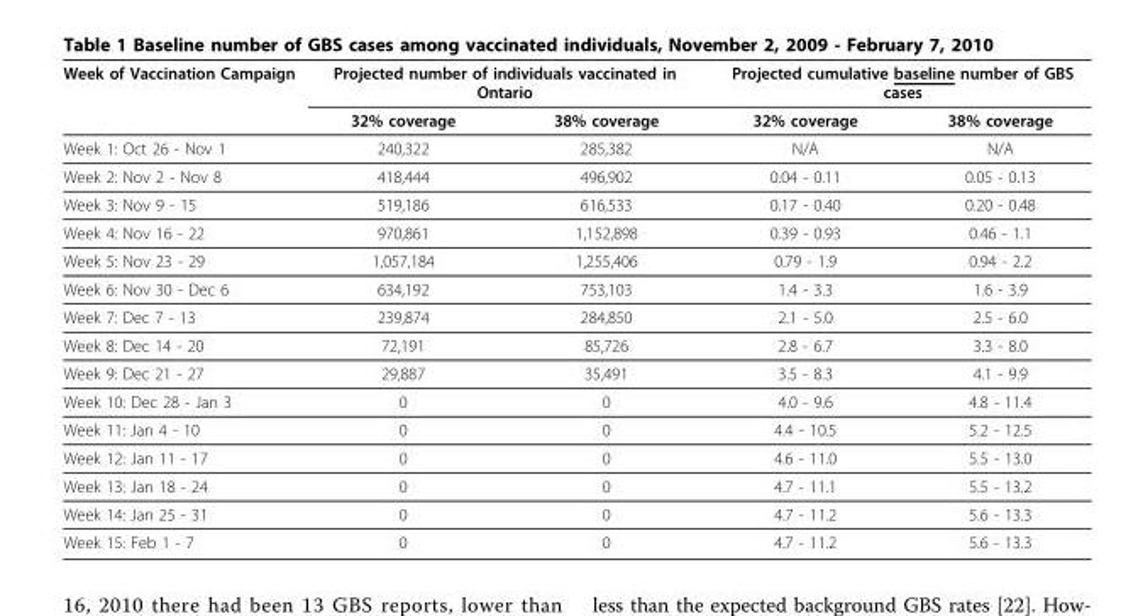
<table><thead><tr><td rowspan="2">Week of Vaccination Campaign</td><td colspan="2">Projected number of individuals vaccinated in Ontario</td><td colspan="2">Projected cumulative baseline number of GBS cases</td></tr><tr><td>32% coverage</td><td>38% coverage</td><td>32% coverage</td><td>38% coverage</td></tr></thead><tbody><tr><td>Week 1: Oct 26 - Nov 1</td><td>240,322</td><td>285,382</td><td>N/A</td><td>N/A</td></tr><tr><td>Week 2: Nov 2 - Nov 8</td><td>418,444</td><td>496,902</td><td>0.04 - 0.11</td><td>0.05 - 0.13</td></tr><tr><td>Week 3: Nov 9 - 15</td><td>519,186</td><td>616,533</td><td>0.17 - 0.40</td><td>0.20 - 0.48</td></tr><tr><td>Week 4: Nov 16 - 22</td><td>970,861</td><td>1,152,898</td><td>0.39 - 0.93</td><td>0.46 - 1.1</td></tr><tr><td>Week 5: Nov 23 - 29</td><td>1,057,184</td><td>1,255,406</td><td>0.79 - 1.9</td><td>0.94 - 2.2</td></tr><tr><td>Week 6: Nov 30 - Dec 6</td><td>634,192</td><td>753,103</td><td>1.4 - 3.3</td><td>1.6 - 3.9</td></tr><tr><td>Week 7: Dec 7 - 13</td><td>239,874</td><td>284,850</td><td>2.1 - 5.0</td><td>2.5 - 6.0</td></tr><tr><td>Week 8: Dec 14 - 20</td><td>72,191</td><td>85,726</td><td>2.8 - 6.7</td><td>3.3 - 8.0</td></tr><tr><td>Week 9: Dec 21 - 27</td><td>29,887</td><td>35,491</td><td>3.5 - 8.3</td><td>4.1 - 9.9</td></tr><tr><td>Week 10: Dec 28 - Jan 3</td><td>0</td><td>0</td><td>4.0 - 9.6</td><td>4.8 - 11.4</td></tr><tr><td>Week 11: Jan 4 - 10</td><td>0</td><td>0</td><td>4.4 - 10.5</td><td>5.2 - 12.5</td></tr><tr><td>Week 12: Jan 11 - 17</td><td>0</td><td>0</td><td>4.6 - 11.0</td><td>5.5 - 13.0</td></tr><tr><td>Week 13: Jan 18 - 24</td><td>0</td><td>0</td><td>4.7 - 11.1</td><td>5.5 - 13.2</td></tr><tr><td>Week 14: Jan 25 - 31</td><td>0</td><td>0</td><td>4.7 - 11.2</td><td>5.6 - 13.3</td></tr><tr><td>Week 15: Feb 1 - 7</td><td>0</td><td>0</td><td>4.7 - 11.2</td><td>5.6 - 13.3</td></tr></tbody></table>